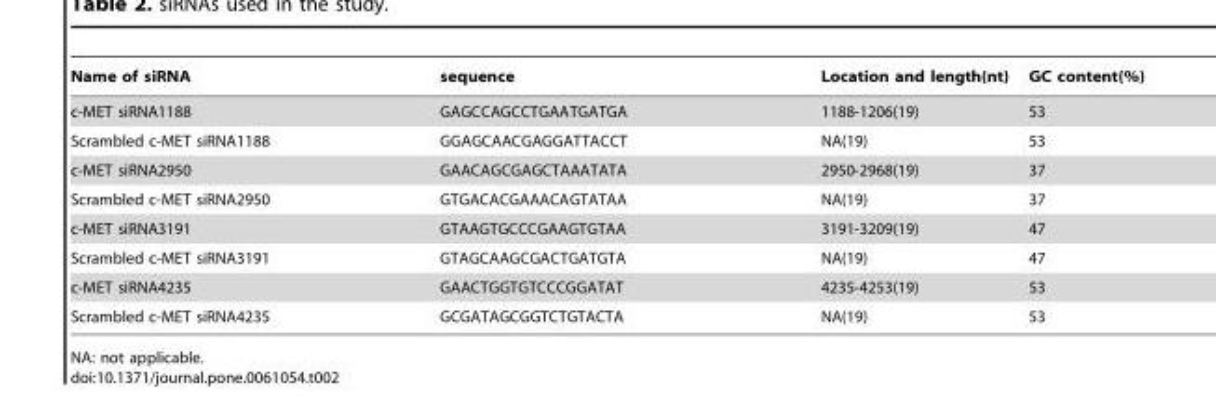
<table><thead><tr><td>Name of siRNA</td><td>sequence</td><td>Location and length(nt)</td><td>GC content(%)</td></tr></thead><tbody><tr><td>c-MET siRNA1188</td><td>GAGCCAGCCTGAATGATGA</td><td>1188-1206(19)</td><td>53</td></tr><tr><td>Scrambled c-MET siRNA1188</td><td>GGAGCAACGAGGATTACCT</td><td>NA(19)</td><td>53</td></tr><tr><td>c-MET siRNA2950</td><td>GAACAGCGAGCTAAATATA</td><td>2950-2968(19)</td><td>37</td></tr><tr><td>Scrambled c-MET siRNA2950</td><td>GTGACACGAAACAGTATAA</td><td>NA(19)</td><td>37</td></tr><tr><td>c-MET siRNA3191</td><td>GTAAGTGCCCGAAGTGTAA</td><td>3191-3209(19)</td><td>47</td></tr><tr><td>Scrambled c-MET siRNA3191</td><td>GTAGCAAGCGACTGATGTA</td><td>NA(19)</td><td>47</td></tr><tr><td>c-MET siRNA4235</td><td>GAACTGGTGTCCCGGATAT</td><td>4235-4253(19)</td><td>53</td></tr><tr><td>Scrambled c-MET siRNA4235</td><td>GCGATAGCGGTCTGTACTA</td><td>NA(19)</td><td>53</td></tr></tbody></table>